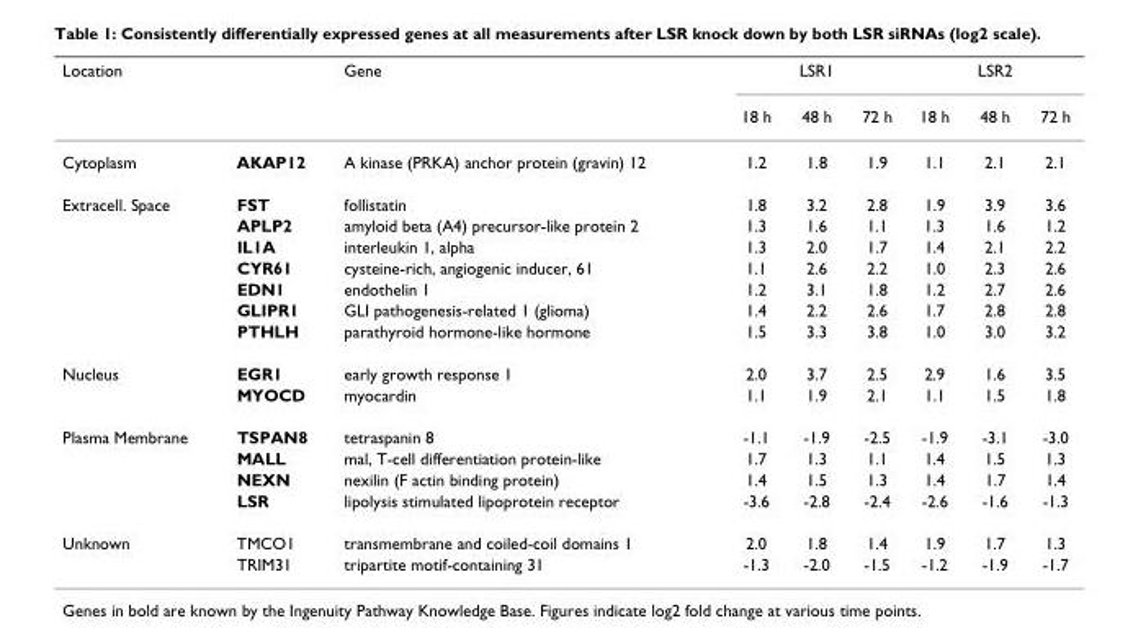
<table><thead><tr><td rowspan="2">Location</td><td rowspan="2"></td><td rowspan="2">Gene</td><td rowspan="2">18 h</td><td rowspan="2">LSR1 48 h</td><td rowspan="2">72 h</td><td rowspan="2">18 h</td><td rowspan="2">LSR2 48 h</td><td rowspan="2">72 h</td></tr><tr></tr></thead><tbody><tr><td>Cytoplasm</td><td>AKAP12</td><td>A kinase (PRKA) anchor protein (gravin) 12</td><td>1.2</td><td>1.8</td><td>1.9</td><td>1.1</td><td>2.1</td><td>2.1</td></tr><tr><td rowspan="7">Extracell. Space</td><td>FST</td><td>follistatin</td><td>1.8</td><td>3.2</td><td>2.8</td><td>1.9</td><td>3.9</td><td>3.6</td></tr><tr><td>APLP2</td><td>amyloid beta (A4) precursor-like protein 2</td><td>1.3</td><td>1.6</td><td>1.1</td><td>1.3</td><td>1.6</td><td>1.2</td></tr><tr><td>IL1A</td><td>interleukin 1, alpha</td><td>1.3</td><td>2.0</td><td>1.7</td><td>1.4</td><td>2.1</td><td>2.2</td></tr><tr><td>CYR61</td><td>cysteine-rich, angiogenic inducer, 61</td><td>1.1</td><td>2.6</td><td>2.2</td><td>1.0</td><td>2.3</td><td>2.6</td></tr><tr><td>EDN1</td><td>endothelin 1</td><td>1.2</td><td>3.1</td><td>1.8</td><td>1.2</td><td>2.7</td><td>2.6</td></tr><tr><td>GLIPR1</td><td>GLI pathogenesis-related 1 (glioma)</td><td>1.4</td><td>2.2</td><td>2.6</td><td>1.7</td><td>2.8</td><td>2.8</td></tr><tr><td>PTHLH</td><td>parathyroid hormone-like hormone</td><td>1.5</td><td>3.3</td><td>3.8</td><td>1.0</td><td>3.0</td><td>3.2</td></tr><tr><td rowspan="2">Nucleus</td><td>EGR1</td><td>early growth response 1</td><td>2.0</td><td>3.7</td><td>2.5</td><td>2.9</td><td>1.6</td><td>3.5</td></tr><tr><td>MYOCD</td><td>myocardin</td><td>1.1</td><td>1.9</td><td>2.1</td><td>1.1</td><td>1.5</td><td>1.8</td></tr><tr><td rowspan="4">Plasma Membrane</td><td>TSPAN8</td><td>tetraspanin 8</td><td>-1.1</td><td>-1.9</td><td>-2.5</td><td>-1.9</td><td>-3.1</td><td>-3.0</td></tr><tr><td>MALL</td><td>mal, T-cell differentiation protein-like</td><td>1.7</td><td>1.3</td><td>1.1</td><td>1.4</td><td>1.5</td><td>1.3</td></tr><tr><td>NEXN</td><td>nexilin (F actin binding protein)</td><td>1.4</td><td>1.5</td><td>1.3</td><td>1.4</td><td>1.7</td><td>1.4</td></tr><tr><td>LSR</td><td>lipolysis stimulated lipoprotein receptor</td><td>-3.6</td><td>-2.8</td><td>-2.4</td><td>-2.6</td><td>-1.6</td><td>-1.3</td></tr><tr><td rowspan="2">Unknown</td><td>TMCO1</td><td>transmembrane and coiled-coil domains 1</td><td>2.0</td><td>1.8</td><td>1.4</td><td>1.9</td><td>1.7</td><td>1.3</td></tr><tr><td>TRIM31</td><td>tripartite motif-containing 31</td><td>-1.3</td><td>-2.0</td><td>-1.5</td><td>-1.2</td><td>-1.9</td><td>-1.7</td></tr></tbody></table>